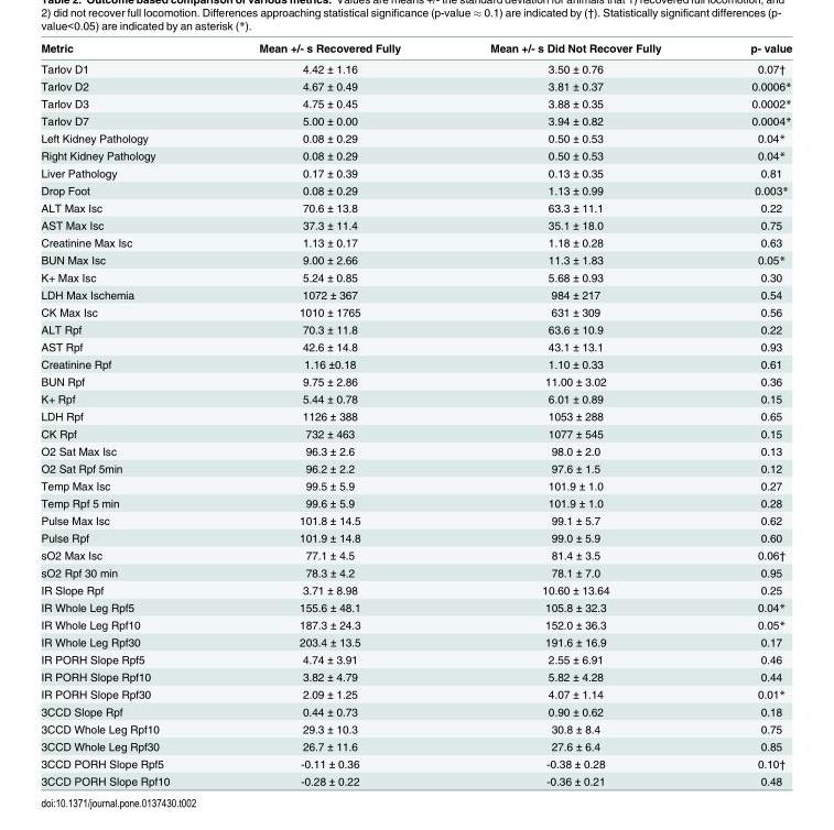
<table><thead><tr><td>Metric</td><td>Mean +/- s Recovered Fully</td><td>Mean +/- s Did Not Recover Fully</td><td>p- value</td></tr></thead><tbody><tr><td>Tarlov D1</td><td>4.42 ± 1.16</td><td>3.50 ± 0.76</td><td>0.07†</td></tr><tr><td>Tarlov D2</td><td>4.67 ± 0.49</td><td>3.81 ± 0.37</td><td>0.0006*</td></tr><tr><td>Tarlov D3</td><td>4.75 ± 0.45</td><td>3.88 ± 0.35</td><td>0.0002*</td></tr><tr><td>Tarlov D7</td><td>5.00 ± 0.00</td><td>3.94 ± 0.82</td><td>0.0004*</td></tr><tr><td>Left Kidney Pathology</td><td>0.08 ± 0.29</td><td>0.50 ± 0.53</td><td>0.04*</td></tr><tr><td>Right Kidney Pathology</td><td>0.08 ± 0.29</td><td>0.50 ± 0.53</td><td>0.04*</td></tr><tr><td>Liver Pathology</td><td>0.17 ± 0.39</td><td>0.13 ± 0.35</td><td>0.81</td></tr><tr><td>Drop Foot</td><td>0.08 ± 0.29</td><td>1.13 ± 0.99</td><td>0.003*</td></tr><tr><td>ALT Max Isc</td><td>70.6 ± 13.8</td><td>63.3 ± 11.1</td><td>0.22</td></tr><tr><td>AST Max Isc</td><td>37.3 ± 11.4</td><td>35.1 ± 18.0</td><td>0.75</td></tr><tr><td>Creatinine Max Isc</td><td>1.13 ± 0.17</td><td>1.18 ± 0.28</td><td>0.63</td></tr><tr><td>BUN Max Isc</td><td>9.00 ± 2.66</td><td>11.3 ± 1.83</td><td>0.05*</td></tr><tr><td>K+ Max Isc</td><td>5.24 ± 0.85</td><td>5.68 ± 0.93</td><td>0.30</td></tr><tr><td>LDH Max Ischemia</td><td>1072 ± 367</td><td>984 ± 217</td><td>0.54</td></tr><tr><td>CK Max Isc</td><td>1010 ± 1765</td><td>631 ± 309</td><td>0.56</td></tr><tr><td>ALT Rpf</td><td>70.3 ± 11.8</td><td>63.6 ± 10.9</td><td>0.22</td></tr><tr><td>AST Rpf</td><td>42.6 ± 14.8</td><td>43.1 ± 13.1</td><td>0.93</td></tr><tr><td>Creatinine Rpf</td><td>1.16 ±0.18</td><td>1.10 ± 0.33</td><td>0.61</td></tr><tr><td>BUN Rpf</td><td>9.75 ± 2.86</td><td>11.00 ± 3.02</td><td>0.36</td></tr><tr><td>K+ Rpf</td><td>5.44 ± 0.78</td><td>6.01 ± 0.89</td><td>0.15</td></tr><tr><td>LDH Rpf</td><td>1126 ± 388</td><td>1053 ± 288</td><td>0.65</td></tr><tr><td>CK Rpf</td><td>732 ± 463</td><td>1077 ± 545</td><td>0.15</td></tr><tr><td>O2 Sat Max Isc</td><td>96.3 ± 2.6</td><td>98.0 ± 2.0</td><td>0.13</td></tr><tr><td>O2 Sat Rpf 5min</td><td>96.2 ± 2.2</td><td>97.6 ± 1.5</td><td>0.12</td></tr><tr><td>Temp Max Isc</td><td>99.5 ± 5.9</td><td>101.9 ± 1.0</td><td>0.27</td></tr><tr><td>Temp Rpf 5 min</td><td>99.6 ± 5.9</td><td>101.9 ± 1.0</td><td>0.28</td></tr><tr><td>Pulse Max Isc</td><td>101.8 ± 14.5</td><td>99.1 ± 5.7</td><td>0.62</td></tr><tr><td>Pulse Rpf</td><td>101.9 ± 14.8</td><td>99.0 ± 5.9</td><td>0.60</td></tr><tr><td>sO2 Max Isc</td><td>77.1 ± 4.5</td><td>81.4 ± 3.5</td><td>0.06†</td></tr><tr><td>sO2 Rpf 30 min</td><td>78.3 ± 4.2</td><td>78.1 ± 7.0</td><td>0.95</td></tr><tr><td>IR Slope Rpf</td><td>3.71 ± 8.98</td><td>10.60 ± 13.64</td><td>0.25</td></tr><tr><td>IR Whole Leg Rpf5</td><td>155.6 ± 48.1</td><td>105.8 ± 32.3</td><td>0.04*</td></tr><tr><td>IR Whole Leg Rpf10</td><td>187.3 ± 24.3</td><td>152.0 ± 36.3</td><td>0.05*</td></tr><tr><td>IR Whole Leg Rpf30</td><td>203.4 ± 13.5</td><td>191.6 ± 16.9</td><td>0.17</td></tr><tr><td>IR PORH Slope Rpf5</td><td>4.74 ± 3.91</td><td>2.55 ± 6.91</td><td>0.46</td></tr><tr><td>IR PORH Slope Rpf10</td><td>3.82 ± 4.79</td><td>5.82 ± 4.28</td><td>0.44</td></tr><tr><td>IR PORH Slope Rpf30</td><td>2.09 ± 1.25</td><td>4.07 ± 1.14</td><td>0.01*</td></tr><tr><td>3CCD Slope Rpf</td><td>0.44 ± 0.73</td><td>0.90 ± 0.62</td><td>0.18</td></tr><tr><td>3CCD Whole Leg Rpf10</td><td>29.3 ± 10.3</td><td>30.8 ± 8.4</td><td>0.75</td></tr><tr><td>3CCD Whole Leg Rpf30</td><td>26.7 ± 11.6</td><td>27.6 ± 6.4</td><td>0.85</td></tr><tr><td>3CCD PORH Slope Rpf5</td><td>-0.11 ± 0.36</td><td>-0.38 ± 0.28</td><td>0.10†</td></tr><tr><td>3CCD PORH Slope Rpf10</td><td>-0.28 ± 0.22</td><td>-0.36 ± 0.21</td><td>0.48</td></tr></tbody></table>